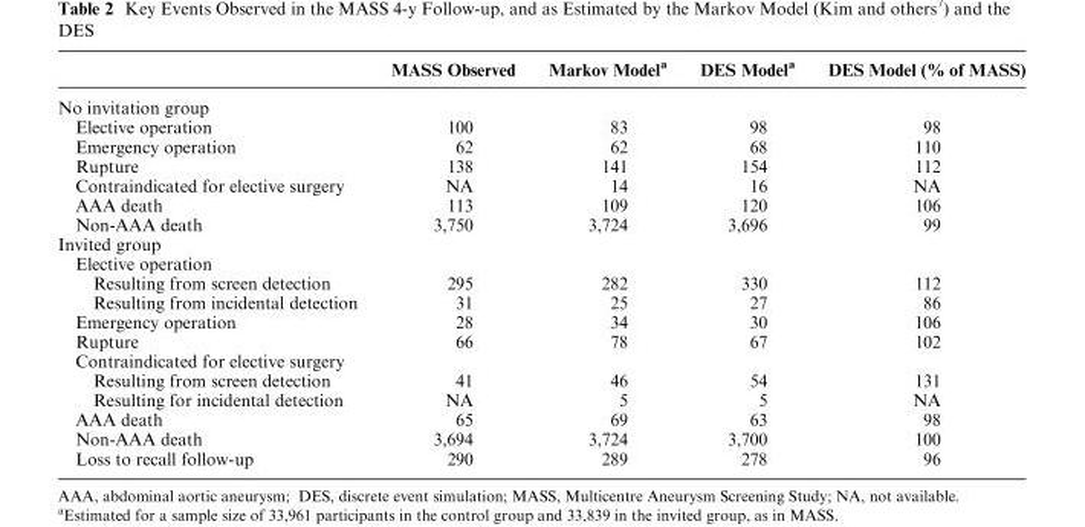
<table><thead><tr><td></td><td>MASS Observed</td><td>Markov Model<sup>a</sup></td><td>DES Model<sup>a</sup></td><td>DES Model (% of MASS)</td></tr></thead><tbody><tr><td colspan="5">No invitation group</td></tr><tr><td>Elective operation</td><td>100</td><td>83</td><td>98</td><td>98</td></tr><tr><td>Emergency operation</td><td>62</td><td>62</td><td>68</td><td>110</td></tr><tr><td>Rupture</td><td>138</td><td>141</td><td>154</td><td>112</td></tr><tr><td>Contraindicated for elective surgery</td><td>NA</td><td>14</td><td>16</td><td>NA</td></tr><tr><td>AAA death</td><td>113</td><td>109</td><td>120</td><td>106</td></tr><tr><td>Non-AAA death</td><td>3,750</td><td>3,724</td><td>3,696</td><td>99</td></tr><tr><td colspan="5">Invited group</td></tr><tr><td colspan="5">Elective operation</td></tr><tr><td>Resulting from screen detection</td><td>295</td><td>282</td><td>330</td><td>112</td></tr><tr><td>Resulting from incidental detection</td><td>31</td><td>25</td><td>27</td><td>86</td></tr><tr><td>Emergency operation</td><td>28</td><td>34</td><td>30</td><td>106</td></tr><tr><td>Rupture</td><td>66</td><td>78</td><td>67</td><td>102</td></tr><tr><td colspan="5">Contraindicated for elective surgery</td></tr><tr><td>Resulting from screen detection</td><td>41</td><td>46</td><td>54</td><td>131</td></tr><tr><td>Resulting for incidental detection</td><td>NA</td><td>5</td><td>5</td><td>NA</td></tr><tr><td>AAA death</td><td>65</td><td>69</td><td>63</td><td>98</td></tr><tr><td>Non-AAA death</td><td>3,694</td><td>3,724</td><td>3,700</td><td>100</td></tr><tr><td>Loss to recall follow-up</td><td>290</td><td>289</td><td>278</td><td>96</td></tr></tbody></table>